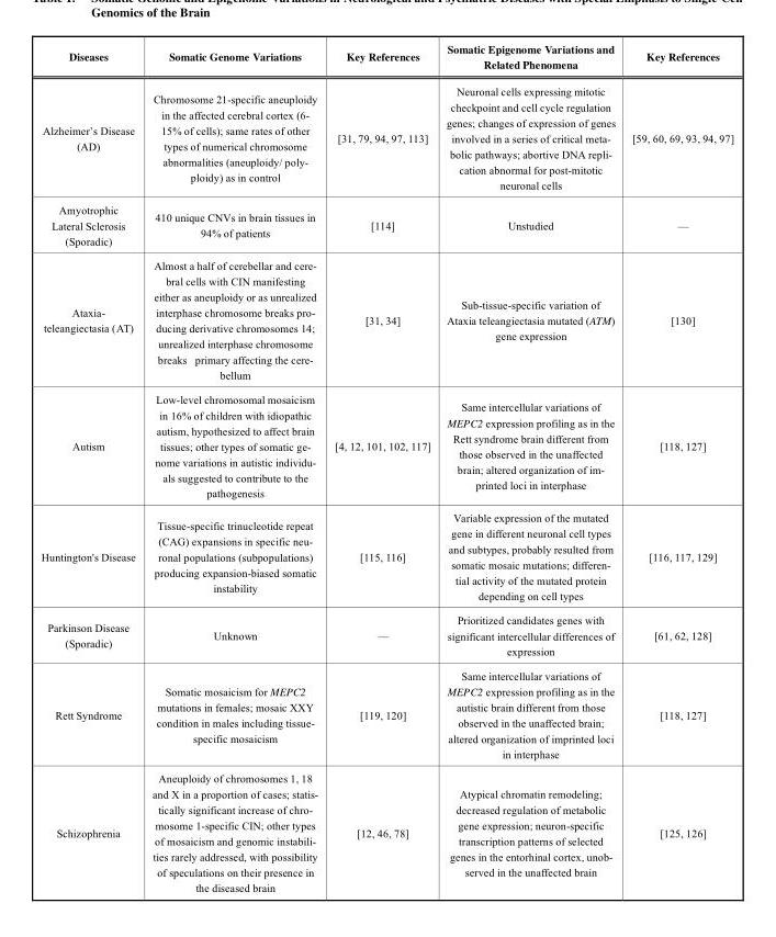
<table><thead><tr><td>Diseases</td><td>Somatic Genome Variations</td><td>Key References</td><td>Somatic Epigenome Variations and Related Phenomena</td><td>Key References</td></tr></thead><tbody><tr><td>Alzheimer’s Disease (AD)</td><td>Chromosome 21-specific aneuploidy in the affected cerebral cortex (6- 15% of cells); same rates of other types of numerical chromosome abnormalities (aneuploidy/ poly- ploidy) as in control</td><td>[31, 79, 94, 97, 113]</td><td>Neuronal cells expressing mitotic checkpoint and cell cycle regulation genes; changes of expression of genes involved in a series of critical meta- bolic pathways; abortive DNA repli- cation abnormal for post-mitotic neuronal cells</td><td>[59, 60, 69, 93, 94, 97]</td></tr><tr><td>Amyotrophic Lateral Sclerosis (Sporadic)</td><td>410 unique CNVs in brain tissues in 94% of patients</td><td>[114]</td><td>Unstudied</td><td>—</td></tr><tr><td>Ataxia- teleangiectasia (AT)</td><td>Almost a half of cerebellar and cere- bral cells with CIN manifesting either as aneuploidy or as unrealized interphase chromosome breaks pro- ducing derivative chromosomes 14; unrealized interphase chromosome breaks primary affecting the cere- bellum</td><td>[31, 34]</td><td>Sub-tissue-specific variation of Ataxia teleangiectasia mutated (ATM) gene expression</td><td>[130]</td></tr><tr><td>Autism</td><td>Low-level chromosomal mosaicism in 16% of children with idiopathic autism, hypothesized to affect brain tissues; other types of somatic ge- nome variations in autistic individu- als suggested to contribute to the pathogenesis</td><td>[4, 12, 101, 102, 117]</td><td>Same intercellular variations of MEPC2 expression profiling as in the Rett syndrome brain different from those observed in the unaffected brain; altered organization of im- printed loci in interphase</td><td>[118, 127]</td></tr><tr><td>Huntington&#x27;s Disease</td><td>Tissue-specific trinucleotide repeat (CAG) expansions in specific neu- ronal populations (subpopulations) producing expansion-biased somatic instability</td><td>[115, 116]</td><td>Variable expression of the mutated gene in different neuronal cell types and subtypes, probably resulted from somatic mosaic mutations; differen- tial activity of the mutated protein depending on cell types</td><td>[116, 117, 129]</td></tr><tr><td>Parkinson Disease (Sporadic)</td><td>Unknown</td><td>—</td><td>Prioritized candidates genes with significant intercellular differences of expression</td><td>[61, 62, 128]</td></tr><tr><td>Rett Syndrome</td><td>Somatic mosaicism for MEPC2 mutations in females; mosaic XXY condition in males including tissue- specific mosaicism</td><td>[119, 120]</td><td>Same intercellular variations of MEPC2 expression profiling as in the autistic brain different from those observed in the unaffected brain; altered organization of imprinted loci in interphase</td><td>[118, 127]</td></tr><tr><td>Schizophrenia</td><td>Aneuploidy of chromosomes 1, 18 and X in a proportion of cases; statis- tically significant increase of chro- mosome 1-specific CIN; other types of mosaicism and genomic instabili- ties rarely addressed, with possibility of speculations on their presence in the diseased brain</td><td>[12, 46, 78]</td><td>Atypical chromatin remodeling; decreased regulation of metabolic gene expression; neuron-specific transcription patterns of selected genes in the entorhinal cortex, unob- served in the unaffected brain</td><td>[125, 126]</td></tr></tbody></table>